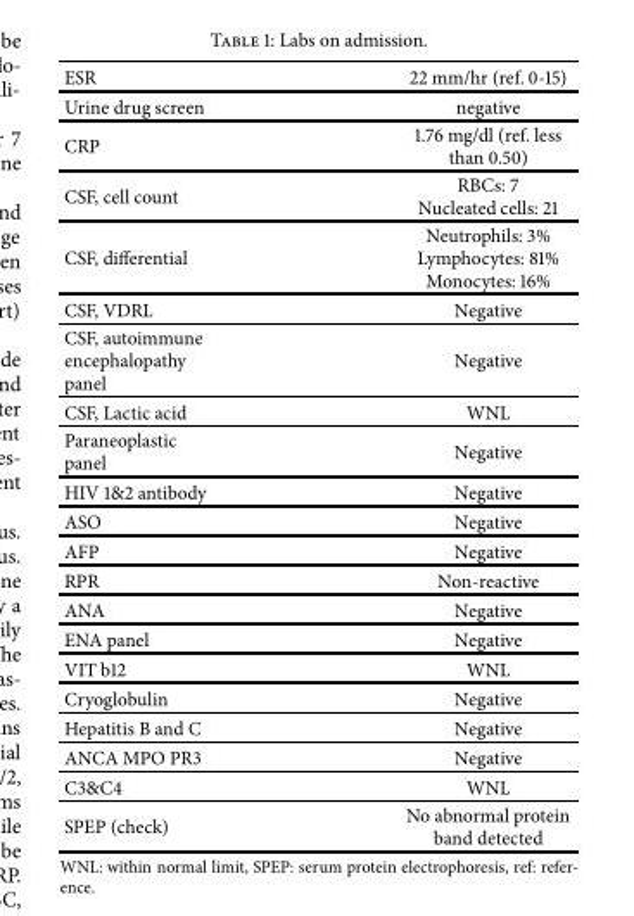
<table><tbody><tr><td>ESR</td><td>22 mm/hr (ref. 0-15)</td></tr><tr><td>Urine drug screen</td><td>negative</td></tr><tr><td>CRP</td><td>1.76 mg/dl (ref. less than 0.50)</td></tr><tr><td>CSF, cell count</td><td>RBCs: 7 Nucleated cells: 21</td></tr><tr><td>CSF, differential</td><td>Neutrophils: 3% Lymphocytes: 81% Monocytes: 16%</td></tr><tr><td>CSF, VDRL</td><td>Negative</td></tr><tr><td>CSF, autoimmune encephalopathy panel</td><td>Negative</td></tr><tr><td>CSF, Lactic acid</td><td>WNL</td></tr><tr><td>Paraneoplastic panel</td><td>Negative</td></tr><tr><td>HIV 1&amp;2 antibody</td><td>Negative</td></tr><tr><td>ASO</td><td>Negative</td></tr><tr><td>AFP</td><td>Negative</td></tr><tr><td>RPR</td><td>Non-reactive</td></tr><tr><td>ANA</td><td>Negative</td></tr><tr><td>ENA panel</td><td>Negative</td></tr><tr><td>VIT b12</td><td>WNL</td></tr><tr><td>Cryoglobulin</td><td>Negative</td></tr><tr><td>Hepatitis B and C</td><td>Negative</td></tr><tr><td>ANCA MPO PR3</td><td>Negative</td></tr><tr><td>C3&amp;C4</td><td>WNL</td></tr><tr><td>SPEP (check)</td><td>No abnormal protein band detected</td></tr></tbody></table>